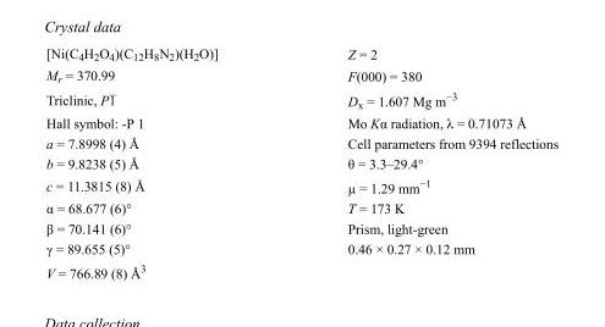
<table><tbody><tr><td>[Ni(C<sub>4</sub>H<sub>2</sub>O<sub>4</sub>)(C<sub>12</sub>H<sub>8</sub>N<sub>2</sub>)(H<sub>2</sub>O)]</td><td>Z = 2</td></tr><tr><td>M<sub>r</sub> = 370.99</td><td>F(000) = 380</td></tr><tr><td>Triclinic, P1</td><td>D<sub>x</sub> = 1.607 Mg m<sup>−3</sup></td></tr><tr><td>Hall symbol: -P 1</td><td>Mo Kα radiation, λ = 0.71073 Å</td></tr><tr><td>a = 7.8998 (4) Å</td><td>Cell parameters from 9394 reflections</td></tr><tr><td>b = 9.8238 (5) Å</td><td>θ = 3.3–29.4°</td></tr><tr><td>c = 11.3815 (8) Å</td><td>µ = 1.29 mm<sup>−1</sup></td></tr><tr><td>α = 68.677 (6)°</td><td>T = 173 K</td></tr><tr><td>β = 70.141 (6)°</td><td>Prism, light-green</td></tr><tr><td>γ = 89.655 (5)°</td><td>0.46 × 0.27 × 0.12 mm</td></tr><tr><td>V = 766.89 (8) Å<sup>3</sup></td><td></td></tr></tbody></table>